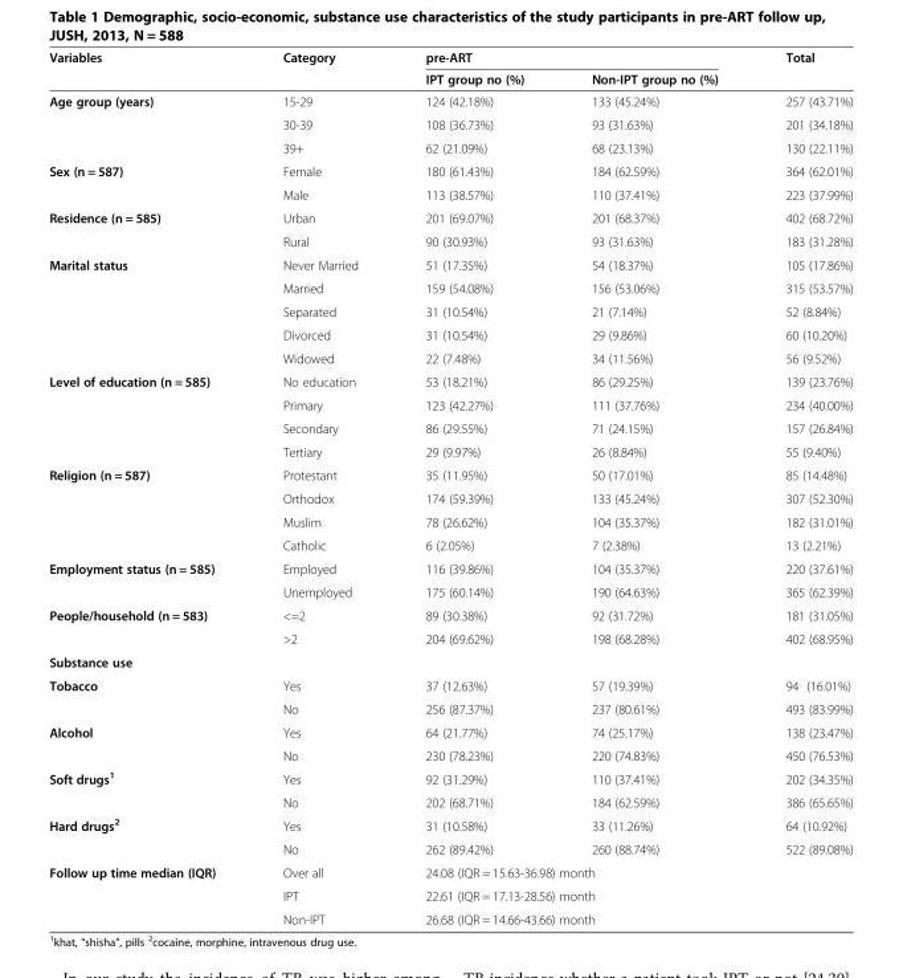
<table><thead><tr><td rowspan="2">Variables</td><td rowspan="2">Category</td><td colspan="2">pre-ART</td><td rowspan="2">Total</td></tr><tr><td>IPT group no (%)</td><td>Non-IPT group no (%)</td></tr></thead><tbody><tr><td rowspan="3">Age group (years)</td><td>15-29</td><td>124 (42.18%)</td><td>133 (45.24%)</td><td>257 (43.71%)</td></tr><tr><td>30-39</td><td>108 (36.73%)</td><td>93 (31.63%)</td><td>201 (34.18%)</td></tr><tr><td>39+</td><td>62 (21.09%)</td><td>68 (23.13%)</td><td>130 (22.11%)</td></tr><tr><td rowspan="2">Sex (n = 587)</td><td>Female</td><td>180 (61.43%)</td><td>184 (62.59%)</td><td>364 (62.01%)</td></tr><tr><td>Male</td><td>113 (38.57%)</td><td>110 (37.41%)</td><td>223 (37.99%)</td></tr><tr><td rowspan="2">Residence (n = 585)</td><td>Urban</td><td>201 (69.07%)</td><td>201 (68.37%)</td><td>402 (68.72%)</td></tr><tr><td>Rural</td><td>90 (30.93%)</td><td>93 (31.63%)</td><td>183 (31.28%)</td></tr><tr><td rowspan="5">Marital status</td><td>Never Married</td><td>51 (17.35%)</td><td>54 (18.37%)</td><td>105 (17.86%)</td></tr><tr><td>Married</td><td>159 (54.08%)</td><td>156 (53.06%)</td><td>315 (53.57%)</td></tr><tr><td>Separated</td><td>31 (10.54%)</td><td>21 (7.14%)</td><td>52 (8.84%)</td></tr><tr><td>Divorced</td><td>31 (10.54%)</td><td>29 (9.86%)</td><td>60 (10.20%)</td></tr><tr><td>Widowed</td><td>22 (7.48%)</td><td>34 (11.56%)</td><td>56 (9.52%)</td></tr><tr><td rowspan="4">Level of education (n = 585)</td><td>No education</td><td>53 (18.21%)</td><td>86 (29.25%)</td><td>139 (23.76%)</td></tr><tr><td>Primary</td><td>123 (42.27%)</td><td>111 (37.76%)</td><td>234 (40.00%)</td></tr><tr><td>Secondary</td><td>86 (29.55%)</td><td>71 (24.15%)</td><td>157 (26.84%)</td></tr><tr><td>Tertiary</td><td>29 (9.97%)</td><td>26 (8.84%)</td><td>55 (9.40%)</td></tr><tr><td rowspan="4">Religion (n = 587)</td><td>Protestant</td><td>35 (11.95%)</td><td>50 (17.01%)</td><td>85 (14.48%)</td></tr><tr><td>Orthodox</td><td>174 (59.39%)</td><td>133 (45.24%)</td><td>307 (52.30%)</td></tr><tr><td>Muslim</td><td>78 (26.62%)</td><td>104 (35.37%)</td><td>182 (31.01%)</td></tr><tr><td>Catholic</td><td>6 (2.05%)</td><td>7 (2.38%)</td><td>13 (2.21%)</td></tr><tr><td rowspan="2">Employment status (n = 585)</td><td>Employed</td><td>116 (39.86%)</td><td>104 (35.37%)</td><td>220 (37.61%)</td></tr><tr><td>Unemployed</td><td>175 (60.14%)</td><td>190 (64.63%)</td><td>365 (62.39%)</td></tr><tr><td rowspan="2">People/household (n = 583)</td><td>&lt;=2</td><td>89 (30.38%)</td><td>92 (31.72%)</td><td>181 (31.05%)</td></tr><tr><td>&gt;2</td><td>204 (69.62%)</td><td>198 (68.28%)</td><td>402 (68.95%)</td></tr><tr><td colspan="5">Substance use</td></tr><tr><td rowspan="2">Tobacco</td><td>Yes</td><td>37 (12.63%)</td><td>57 (19.39%)</td><td>94 (16.01%)</td></tr><tr><td>No</td><td>256 (87.37%)</td><td>237 (80.61%)</td><td>493 (83.99%)</td></tr><tr><td rowspan="2">Alcohol</td><td>Yes</td><td>64 (21.77%)</td><td>74 (25.17%)</td><td>138 (23.47%)</td></tr><tr><td>No</td><td>230 (78.23%)</td><td>220 (74.83%)</td><td>450 (76.53%)</td></tr><tr><td rowspan="2">Soft drugs<sup>1</sup></td><td>Yes</td><td>92 (31.29%)</td><td>110 (37.41%)</td><td>202 (34.35%)</td></tr><tr><td>No</td><td>202 (68.71%)</td><td>184 (62.59%)</td><td>386 (65.65%)</td></tr><tr><td rowspan="2">Hard drugs<sup>2</sup></td><td>Yes</td><td>31 (10.58%)</td><td>33 (11.26%)</td><td>64 (10.92%)</td></tr><tr><td>No</td><td>262 (89.42%)</td><td>260 (88.74%)</td><td>522 (89.08%)</td></tr><tr><td rowspan="3">Follow up time median (IQR)</td><td>Over all</td><td colspan="3">24.08 (IQR = 15.63-36.98) month</td></tr><tr><td>IPT</td><td colspan="3">22.61 (IQR = 17.13-28.56) month</td></tr><tr><td>Non-IPT</td><td colspan="3">26.68 (IQR = 14.66-43.66) month</td></tr></tbody></table>